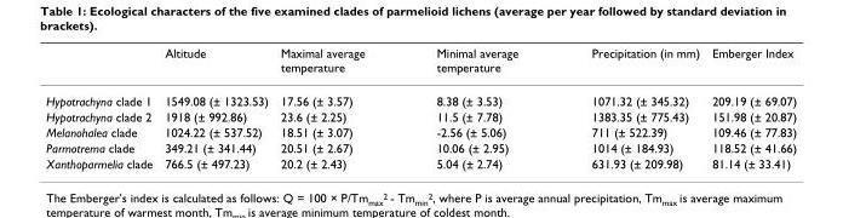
<table><thead><tr><td></td><td>Altitude</td><td>Maximal average temperature</td><td>Minimal average temperature</td><td>Precipitation (in mm)</td><td>Emberger Index</td></tr></thead><tbody><tr><td>Hypotrachyna clade 1</td><td>1549.08 (± 1323.53)</td><td>17.56 (± 3.57)</td><td>8.38 (± 3.53)</td><td>1071.32 (± 345.32)</td><td>209.19 (± 69.07)</td></tr><tr><td>Hypotrachyna clade 2</td><td>1918 (± 992.86)</td><td>23.6 (± 2.25)</td><td>11.5 (± 7.78)</td><td>1383.35 (± 775.43)</td><td>151.98 (± 20.87)</td></tr><tr><td>Melanohalea clade</td><td>1024.22 (± 537.52)</td><td>18.51 (± 3.07)</td><td>-2.56 (± 5.06)</td><td>711 (± 522.39)</td><td>109.46 (± 77.83)</td></tr><tr><td>Parmotrema clade</td><td>349.21 (± 341.44)</td><td>20.51 (± 2.67)</td><td>10.06 (± 2.95)</td><td>1014 (± 184.93)</td><td>118.52 (± 41.66)</td></tr><tr><td>Xanthoparmelia clade</td><td>766.5 (± 497.23)</td><td>20.2 (± 2.43)</td><td>5.04 (± 2.74)</td><td>631.93 (± 209.98)</td><td>81.14 (± 33.41)</td></tr></tbody></table>